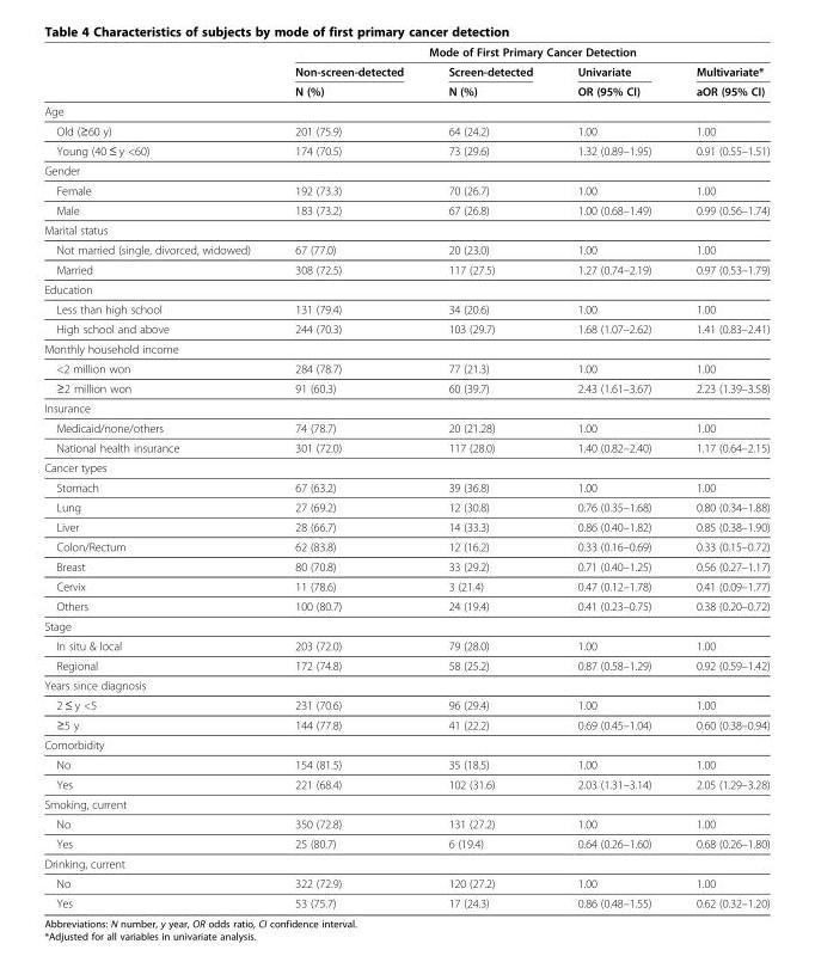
<table><thead><tr><td rowspan="3"></td><td colspan="4">Mode of First Primary Cancer Detection</td></tr><tr><td rowspan="2">Non-screen-detected N (%)</td><td rowspan="2">Screen-detected N (%)</td><td rowspan="2">Univariate OR (95% CI)</td><td rowspan="2">Multivariate* aOR (95% CI)</td></tr><tr></tr></thead><tbody><tr><td colspan="5">Age</td></tr><tr><td>Old (≥60 y)</td><td>201 (75.9)</td><td>64 (24.2)</td><td>1.00</td><td>1.00</td></tr><tr><td>Young (40 ≤ y &lt;60)</td><td>174 (70.5)</td><td>73 (29.6)</td><td>1.32 (0.89–1.95)</td><td>0.91 (0.55–1.51)</td></tr><tr><td colspan="5">Gender</td></tr><tr><td>Female</td><td>192 (73.3)</td><td>70 (26.7)</td><td>1.00</td><td>1.00</td></tr><tr><td>Male</td><td>183 (73.2)</td><td>67 (26.8)</td><td>1.00 (0.68–1.49)</td><td>0.99 (0.56–1.74)</td></tr><tr><td colspan="5">Marital status</td></tr><tr><td>Not married (single, divorced, widowed)</td><td>67 (77.0)</td><td>20 (23.0)</td><td>1.00</td><td>1.00</td></tr><tr><td>Married</td><td>308 (72.5)</td><td>117 (27.5)</td><td>1.27 (0.74–2.19)</td><td>0.97 (0.53–1.79)</td></tr><tr><td colspan="5">Education</td></tr><tr><td>Less than high school</td><td>131 (79.4)</td><td>34 (20.6)</td><td>1.00</td><td>1.00</td></tr><tr><td>High school and above</td><td>244 (70.3)</td><td>103 (29.7)</td><td>1.68 (1.07–2.62)</td><td>1.41 (0.83–2.41)</td></tr><tr><td colspan="5">Monthly household income</td></tr><tr><td>&lt;2 million won</td><td>284 (78.7)</td><td>77 (21.3)</td><td>1.00</td><td>1.00</td></tr><tr><td>≥2 million won</td><td>91 (60.3)</td><td>60 (39.7)</td><td>2.43 (1.61–3.67)</td><td>2.23 (1.39–3.58)</td></tr><tr><td colspan="5">Insurance</td></tr><tr><td>Medicaid/none/others</td><td>74 (78.7)</td><td>20 (21.28)</td><td>1.00</td><td>1.00</td></tr><tr><td>National health insurance</td><td>301 (72.0)</td><td>117 (28.0)</td><td>1.40 (0.82–2.40)</td><td>1.17 (0.64–2.15)</td></tr><tr><td colspan="5">Cancer types</td></tr><tr><td>Stomach</td><td>67 (63.2)</td><td>39 (36.8)</td><td>1.00</td><td>1.00</td></tr><tr><td>Lung</td><td>27 (69.2)</td><td>12 (30.8)</td><td>0.76 (0.35–1.68)</td><td>0.80 (0.34–1.88)</td></tr><tr><td>Liver</td><td>28 (66.7)</td><td>14 (33.3)</td><td>0.86 (0.40–1.82)</td><td>0.85 (0.38–1.90)</td></tr><tr><td>Colon/Rectum</td><td>62 (83.8)</td><td>12 (16.2)</td><td>0.33 (0.16–0.69)</td><td>0.33 (0.15–0.72)</td></tr><tr><td>Breast</td><td>80 (70.8)</td><td>33 (29.2)</td><td>0.71 (0.40–1.25)</td><td>0.56 (0.27–1.17)</td></tr><tr><td>Cervix</td><td>11 (78.6)</td><td>3 (21.4)</td><td>0.47 (0.12–1.78)</td><td>0.41 (0.09–1.77)</td></tr><tr><td>Others</td><td>100 (80.7)</td><td>24 (19.4)</td><td>0.41 (0.23–0.75)</td><td>0.38 (0.20–0.72)</td></tr><tr><td colspan="5">Stage</td></tr><tr><td>In situ &amp; local</td><td>203 (72.0)</td><td>79 (28.0)</td><td>1.00</td><td>1.00</td></tr><tr><td>Regional</td><td>172 (74.8)</td><td>58 (25.2)</td><td>0.87 (0.58–1.29)</td><td>0.92 (0.59–1.42)</td></tr><tr><td colspan="5">Years since diagnosis</td></tr><tr><td>2 ≤ y &lt;5</td><td>231 (70.6)</td><td>96 (29.4)</td><td>1.00</td><td>1.00</td></tr><tr><td>≥5 y</td><td>144 (77.8)</td><td>41 (22.2)</td><td>0.69 (0.45–1.04)</td><td>0.60 (0.38–0.94)</td></tr><tr><td colspan="5">Comorbidity</td></tr><tr><td>No</td><td>154 (81.5)</td><td>35 (18.5)</td><td>1.00</td><td>1.00</td></tr><tr><td>Yes</td><td>221 (68.4)</td><td>102 (31.6)</td><td>2.03 (1.31–3.14)</td><td>2.05 (1.29–3.28)</td></tr><tr><td colspan="5">Smoking, current</td></tr><tr><td>No</td><td>350 (72.8)</td><td>131 (27.2)</td><td>1.00</td><td>1.00</td></tr><tr><td>Yes</td><td>25 (80.7)</td><td>6 (19.4)</td><td>0.64 (0.26–1.60)</td><td>0.68 (0.26–1.80)</td></tr><tr><td colspan="5">Drinking, current</td></tr><tr><td>No</td><td>322 (72.9)</td><td>120 (27.2)</td><td>1.00</td><td>1.00</td></tr><tr><td>Yes</td><td>53 (75.7)</td><td>17 (24.3)</td><td>0.86 (0.48–1.55)</td><td>0.62 (0.32–1.20)</td></tr></tbody></table>